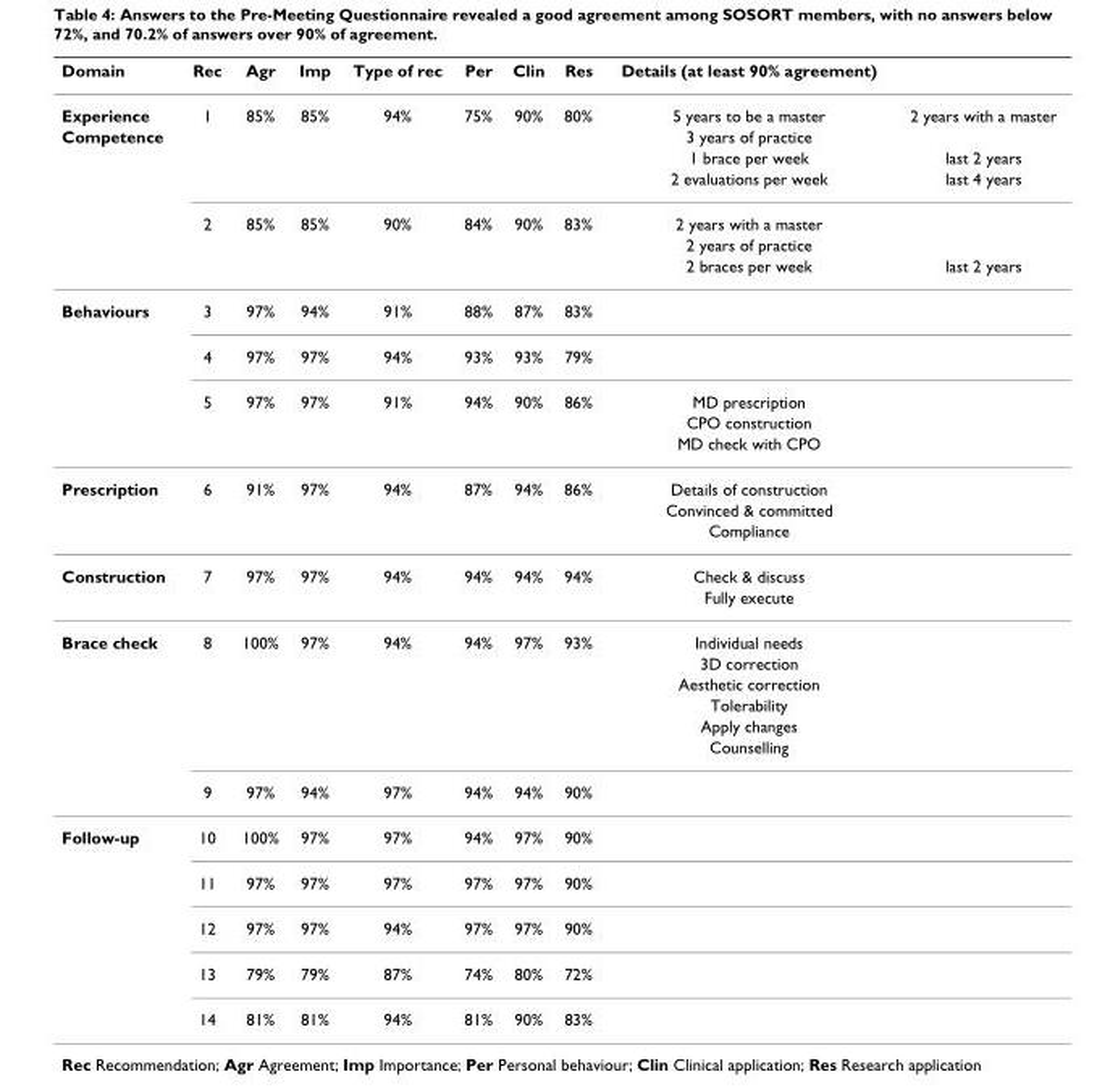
<table><thead><tr><td>Domain</td><td>Rec</td><td>Agr</td><td>Imp</td><td>Type of rec</td><td>Per</td><td>Clin</td><td>Res</td><td>Details (at least 90% agreement)</td><td></td></tr></thead><tbody><tr><td>Experience</td><td>1</td><td>85%</td><td>85%</td><td>94%</td><td>75%</td><td>90%</td><td>80%</td><td>5 years to be a master</td><td>2 years with a master</td></tr><tr><td rowspan="6">Competence</td><td></td><td></td><td></td><td></td><td></td><td></td><td></td><td>3 years of practice</td><td></td></tr><tr><td></td><td></td><td></td><td></td><td></td><td></td><td></td><td>1 brace per week</td><td>last 2 years</td></tr><tr><td></td><td></td><td></td><td></td><td></td><td></td><td></td><td>2 evaluations per week</td><td>last 4 years</td></tr><tr><td>2</td><td>85%</td><td>85%</td><td>90%</td><td>84%</td><td>90%</td><td>83%</td><td>2 years with a master</td><td></td></tr><tr><td></td><td></td><td></td><td></td><td></td><td></td><td></td><td>2 years of practice</td><td></td></tr><tr><td></td><td></td><td></td><td></td><td></td><td></td><td></td><td>2 braces per week</td><td>last 2 years</td></tr><tr><td rowspan="5">Behaviours</td><td>3</td><td>97%</td><td>94%</td><td>91%</td><td>88%</td><td>87%</td><td>83%</td><td></td><td></td></tr><tr><td>4</td><td>97%</td><td>97%</td><td>94%</td><td>93%</td><td>93%</td><td>79%</td><td></td><td></td></tr><tr><td>5</td><td>97%</td><td>97%</td><td>91%</td><td>94%</td><td>90%</td><td>86%</td><td>MD prescription</td><td></td></tr><tr><td></td><td></td><td></td><td></td><td></td><td></td><td></td><td>CPO construction</td><td></td></tr><tr><td></td><td></td><td></td><td></td><td></td><td></td><td></td><td>MD check with CPO</td><td></td></tr><tr><td rowspan="3">Prescription</td><td>6</td><td>91%</td><td>97%</td><td>94%</td><td>87%</td><td>94%</td><td>86%</td><td>Details of construction</td><td></td></tr><tr><td></td><td></td><td></td><td></td><td></td><td></td><td></td><td>Convinced &amp; committed</td><td></td></tr><tr><td></td><td></td><td></td><td></td><td></td><td></td><td></td><td>Compliance</td><td></td></tr><tr><td rowspan="2">Construction</td><td>7</td><td>97%</td><td>97%</td><td>94%</td><td>94%</td><td>94%</td><td>94%</td><td>Check &amp; discuss</td><td></td></tr><tr><td></td><td></td><td></td><td></td><td></td><td></td><td></td><td>Fully execute</td><td></td></tr><tr><td rowspan="7">Brace check</td><td>8</td><td>100%</td><td>97%</td><td>94%</td><td>94%</td><td>97%</td><td>93%</td><td>Individual needs</td><td></td></tr><tr><td></td><td></td><td></td><td></td><td></td><td></td><td></td><td>3D correction</td><td></td></tr><tr><td></td><td></td><td></td><td></td><td></td><td></td><td></td><td>Aesthetic correction</td><td></td></tr><tr><td></td><td></td><td></td><td></td><td></td><td></td><td></td><td>Tolerability</td><td></td></tr><tr><td></td><td></td><td></td><td></td><td></td><td></td><td></td><td>Apply changes</td><td></td></tr><tr><td></td><td></td><td></td><td></td><td></td><td></td><td></td><td>Counselling</td><td></td></tr><tr><td>9</td><td>97%</td><td>94%</td><td>97%</td><td>94%</td><td>94%</td><td>90%</td><td></td><td></td></tr><tr><td rowspan="5">Follow-up</td><td>10</td><td>100%</td><td>97%</td><td>97%</td><td>94%</td><td>97%</td><td>90%</td><td></td><td></td></tr><tr><td>11</td><td>97%</td><td>97%</td><td>97%</td><td>97%</td><td>97%</td><td>90%</td><td></td><td></td></tr><tr><td>12</td><td>97%</td><td>97%</td><td>94%</td><td>97%</td><td>97%</td><td>90%</td><td></td><td></td></tr><tr><td>13</td><td>79%</td><td>79%</td><td>87%</td><td>74%</td><td>80%</td><td>72%</td><td></td><td></td></tr><tr><td>14</td><td>81%</td><td>81%</td><td>94%</td><td>81%</td><td>90%</td><td>83%</td><td></td><td></td></tr></tbody></table>